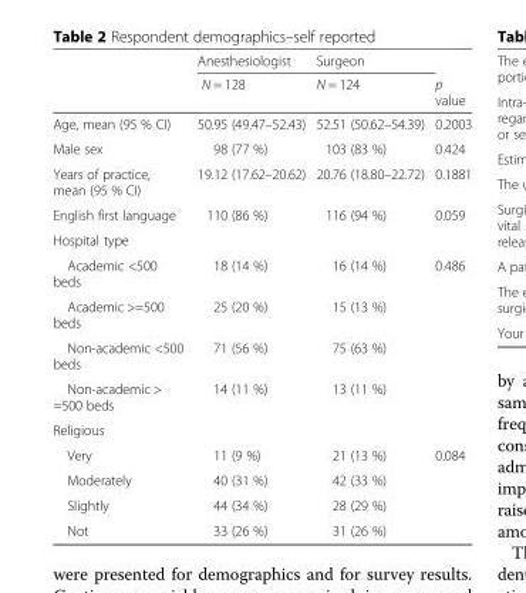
<table><thead><tr><td rowspan="2"></td><td rowspan="2">Anesthesiologist N = 128</td><td rowspan="2">Surgeon N = 124</td><td rowspan="2">p value</td></tr><tr></tr></thead><tbody><tr><td>Age, mean (95 % CI)</td><td>50.95 (49.47–52.43)</td><td>52.51 (50.62–54.39)</td><td>0.2003</td></tr><tr><td>Male sex</td><td>98 (77 %)</td><td>103 (83 %)</td><td>0.424</td></tr><tr><td>Years of practice, mean (95 % CI)</td><td>19.12 (17.62–20.62)</td><td>20.76 (18.80–22.72)</td><td>0.1881</td></tr><tr><td>English first language</td><td>110 (86 %)</td><td>116 (94 %)</td><td>0.059</td></tr><tr><td colspan="4">Hospital type</td></tr><tr><td>Academic &lt;500 beds</td><td>18 (14 %)</td><td>16 (14 %)</td><td>0.486</td></tr><tr><td>Academic &gt;=500 beds</td><td>25 (20 %)</td><td>15 (13 %)</td><td></td></tr><tr><td>Non-academic &lt;500 beds</td><td>71 (56 %)</td><td>75 (63 %)</td><td></td></tr><tr><td>Non-academic &gt; =500 beds</td><td>14 (11 %)</td><td>13 (11 %)</td><td></td></tr><tr><td colspan="4">Religious</td></tr><tr><td>Very</td><td>11 (9 %)</td><td>21 (13 %)</td><td>0.084</td></tr><tr><td>Moderately</td><td>40 (31 %)</td><td>42 (33 %)</td><td></td></tr><tr><td>Slightly</td><td>44 (34 %)</td><td>28 (29 %)</td><td></td></tr><tr><td>Not</td><td>33 (26 %)</td><td>31 (26 %)</td><td></td></tr></tbody></table>